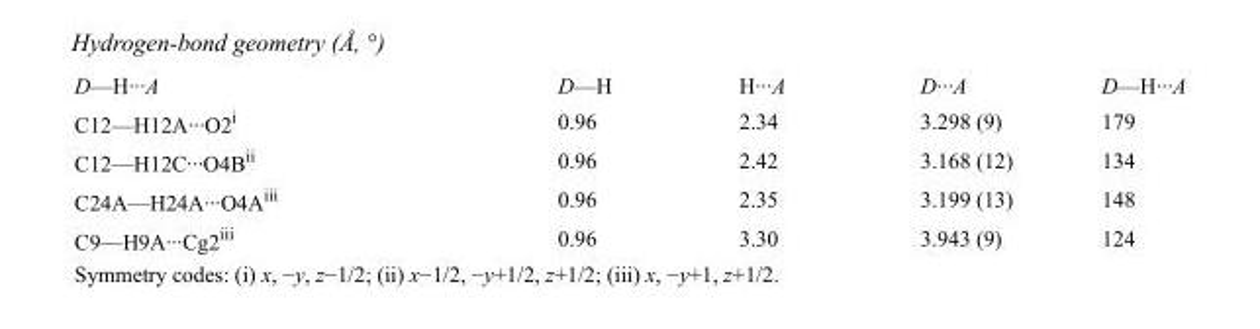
<table><tbody><tr><td>D—H···A</td><td>D—H</td><td>H···A</td><td>D···A</td><td>D—H···A</td></tr><tr><td>C12—H12A···O2<sup>i</sup></td><td>0.96</td><td>2.34</td><td>3.298 (9)</td><td>179</td></tr><tr><td>C12—H12C···O4B<sup>ii</sup></td><td>0.96</td><td>2.42</td><td>3.168 (12)</td><td>134</td></tr><tr><td>C24A—H24A···O4A<sup>iii</sup></td><td>0.96</td><td>2.35</td><td>3.199 (13)</td><td>148</td></tr><tr><td>C9—H9A···Cg2<sup>iii</sup></td><td>0.96</td><td>3.30</td><td>3.943 (9)</td><td>124</td></tr></tbody></table>